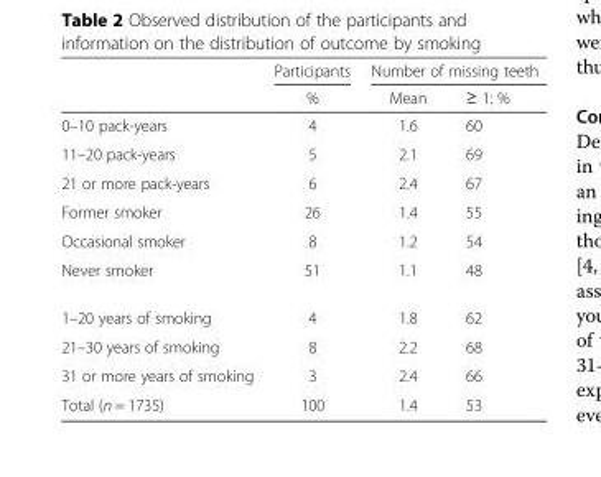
<table><thead><tr><td rowspan="2"></td><td rowspan="2">Participants %</td><td colspan="2">Number of missing teeth</td></tr><tr><td>Mean</td><td>≥ 1: %</td></tr></thead><tbody><tr><td>0–10 pack-years</td><td>4</td><td>1.6</td><td>60</td></tr><tr><td>11–20 pack-years</td><td>5</td><td>2.1</td><td>69</td></tr><tr><td>21 or more pack-years</td><td>6</td><td>2.4</td><td>67</td></tr><tr><td>Former smoker</td><td>26</td><td>1.4</td><td>55</td></tr><tr><td>Occasional smoker</td><td>8</td><td>1.2</td><td>54</td></tr><tr><td>Never smoker</td><td>51</td><td>1.1</td><td>48</td></tr><tr><td>1–20 years of smoking</td><td>4</td><td>1.8</td><td>62</td></tr><tr><td>21–30 years of smoking</td><td>8</td><td>2.2</td><td>68</td></tr><tr><td>31 or more years of smoking</td><td>3</td><td>2.4</td><td>66</td></tr><tr><td>Total (n = 1735)</td><td>100</td><td>1.4</td><td>53</td></tr></tbody></table>